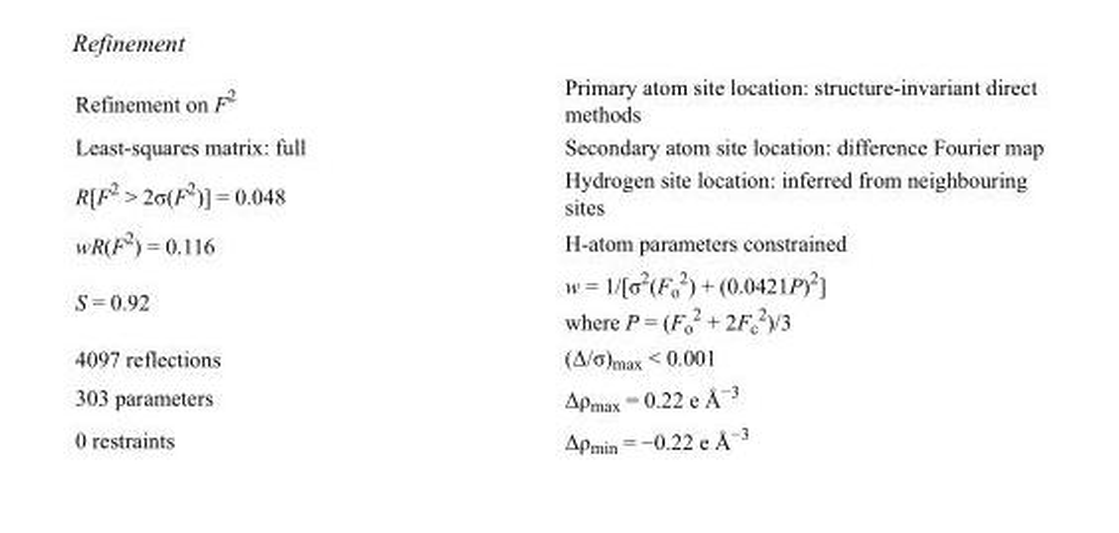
<table><tbody><tr><td>Refinement on F<sup>2</sup></td><td>Primary atom site location: structure-invariant direct methods</td></tr><tr><td>Least-squares matrix: full</td><td>Secondary atom site location: difference Fourier map</td></tr><tr><td>R[F<sup>2</sup> &gt; 2σ(F<sup>2</sup>)] = 0.048</td><td>Hydrogen site location: inferred from neighbouring sites</td></tr><tr><td>wR(F<sup>2</sup>) = 0.116</td><td>H-atom parameters constrained</td></tr><tr><td>S = 0.92</td><td>w = 1/[σ<sup>2</sup>(F<sub>o</sub> <sup>2</sup>) + (0.0421P)<sup>2</sup>] where P = (F<sub>o</sub> <sup>2</sup> + 2F<sub>c</sub> <sup>2</sup>)/3</td></tr><tr><td>4097 reflections</td><td>(Δ/σ)<sub>max</sub> &lt; 0.001</td></tr><tr><td>303 parameters</td><td>Δρ<sub>max</sub> = 0.22 e Å<sup>−3</sup></td></tr><tr><td>0 restraints</td><td>Δρ<sub>min</sub> = −0.22 e Å<sup>−3</sup></td></tr></tbody></table>